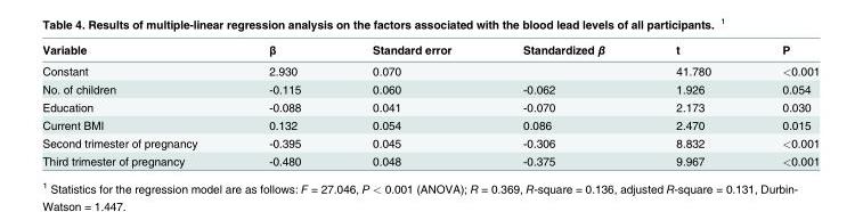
<table><thead><tr><td>Variable</td><td>β</td><td>Standard error</td><td>Standardized β</td><td>t</td><td>P</td></tr></thead><tbody><tr><td>Constant</td><td>2.930</td><td>0.070</td><td></td><td>41.780</td><td>&lt;0.001</td></tr><tr><td>No. of children</td><td>-0.115</td><td>0.060</td><td>-0.062</td><td>1.926</td><td>0.054</td></tr><tr><td>Education</td><td>-0.088</td><td>0.041</td><td>-0.070</td><td>2.173</td><td>0.030</td></tr><tr><td>Current BMI</td><td>0.132</td><td>0.054</td><td>0.086</td><td>2.470</td><td>0.015</td></tr><tr><td>Second trimester of pregnancy</td><td>-0.395</td><td>0.045</td><td>-0.306</td><td>8.832</td><td>&lt;0.001</td></tr><tr><td>Third trimester of pregnancy</td><td>-0.480</td><td>0.048</td><td>-0.375</td><td>9.967</td><td>&lt;0.001</td></tr></tbody></table>